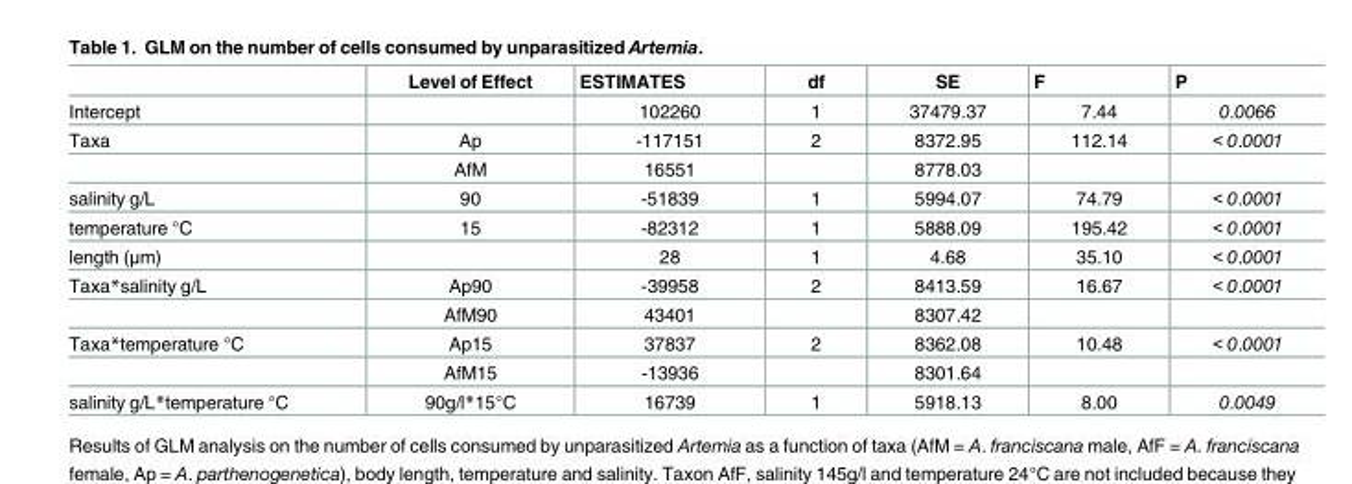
<table><thead><tr><td></td><td>Level of Effect</td><td>ESTIMATES</td><td>df</td><td>SE</td><td>F</td><td>P</td></tr></thead><tbody><tr><td>Intercept</td><td></td><td>102260</td><td>1</td><td>37479.37</td><td>7.44</td><td>0.0066</td></tr><tr><td rowspan="2">Taxa</td><td>Ap</td><td>-117151</td><td>2</td><td>8372.95</td><td>112.14</td><td>&lt; 0.0001</td></tr><tr><td>AfM</td><td>16551</td><td></td><td>8778.03</td><td></td><td></td></tr><tr><td>salinity g/L</td><td>90</td><td>-51839</td><td>1</td><td>5994.07</td><td>74.79</td><td>&lt; 0.0001</td></tr><tr><td>temperature °C</td><td>15</td><td>-82312</td><td>1</td><td>5888.09</td><td>195.42</td><td>&lt; 0.0001</td></tr><tr><td>length (μm)</td><td></td><td>28</td><td>1</td><td>4.68</td><td>35.10</td><td>&lt; 0.0001</td></tr><tr><td rowspan="2">Taxa*salinity g/L</td><td>Ap90</td><td>-39958</td><td>2</td><td>8413.59</td><td>16.67</td><td>&lt; 0.0001</td></tr><tr><td>AfM90</td><td>43401</td><td></td><td>8307.42</td><td></td><td></td></tr><tr><td rowspan="2">Taxa*temperature °C</td><td>Ap15</td><td>37837</td><td>2</td><td>8362.08</td><td>10.48</td><td>&lt; 0.0001</td></tr><tr><td>AfM15</td><td>-13936</td><td></td><td>8301.64</td><td></td><td></td></tr><tr><td>salinity g/L*temperature °C</td><td>90g/l*15°C</td><td>16739</td><td>1</td><td>5918.13</td><td>8.00</td><td>0.0049</td></tr></tbody></table>